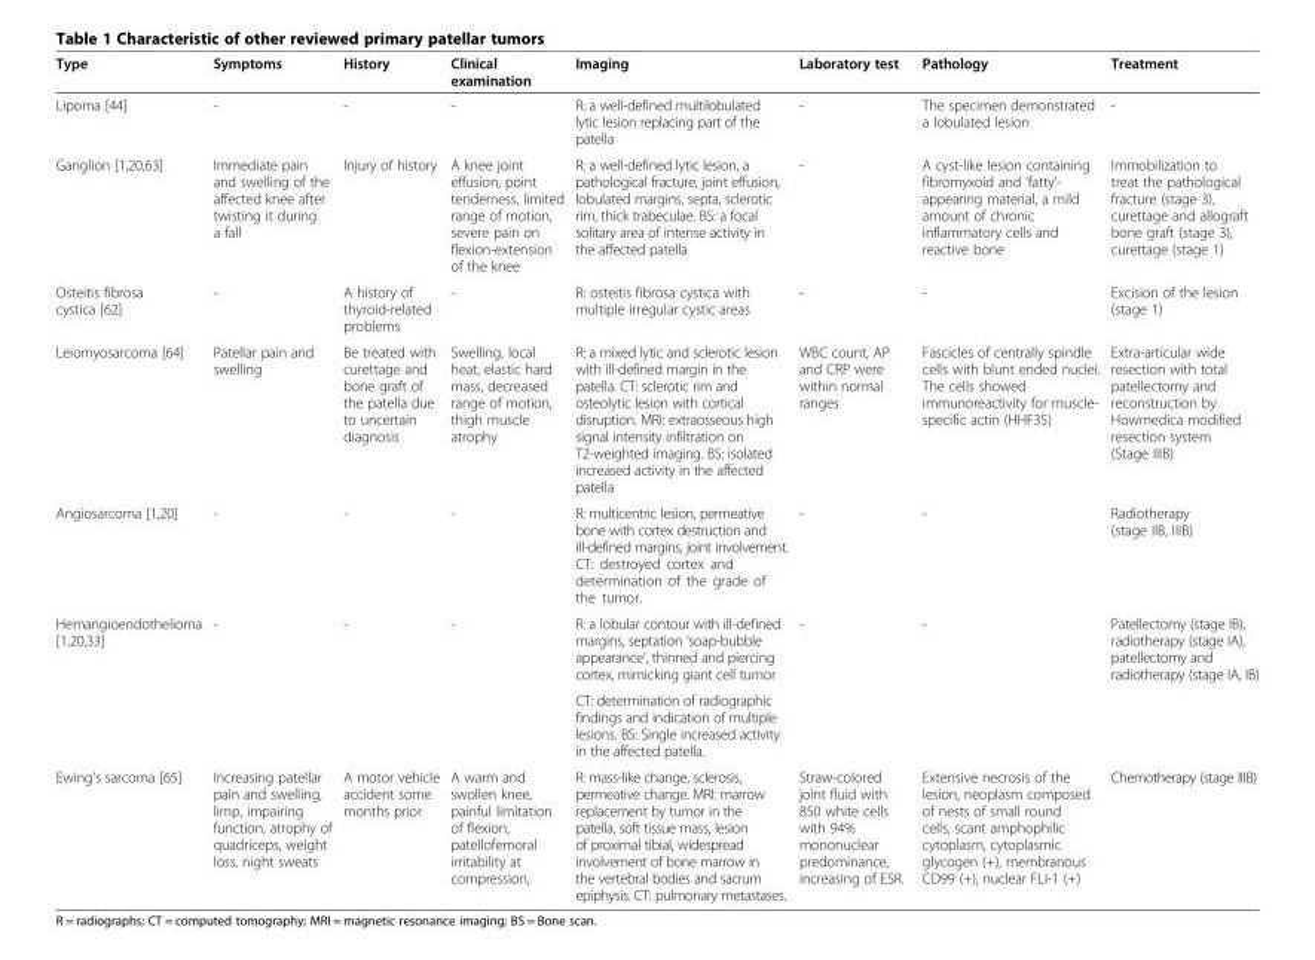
<table><thead><tr><td>Type</td><td>Symptoms</td><td>History</td><td>Clinical examination</td><td>Imaging</td><td>Laboratory test</td><td>Pathology</td><td>Treatment</td></tr></thead><tbody><tr><td>Lipoma [44]</td><td>-</td><td>-</td><td>-</td><td>R: a well-defined multilobulated lytic lesion replacing part of the patella</td><td>-</td><td>The specimen demonstrated a lobulated lesion</td><td>-</td></tr><tr><td>Ganglion [1,20,63]</td><td>Immediate pain and swelling of the affected knee after twisting it during a fall</td><td>Injury of history</td><td>A knee joint effusion, point tenderness, limited range of motion, severe pain on flexion-extension of the knee</td><td>R: a well-defined lytic lesion, a pathological fracture, joint effusion, lobulated margins, septa, sclerotic rim, thick trabeculae. BS: a focal solitary area of intense activity in the affected patella</td><td>-</td><td>A cyst-like lesion containing fibromyxoid and ‘fatty’- appearing material, a mild amount of chronic inflammatory cells and reactive bone</td><td>Immobilization to treat the pathological fracture (stage 3), curettage and allograft bone graft (stage 3), curettage (stage 1)</td></tr><tr><td>Osteitis fibrosa cystica [62]</td><td>-</td><td>A history of thyroid-related problems</td><td>-</td><td>R: osteitis fibrosa cystica with multiple irregular cystic areas</td><td>-</td><td>-</td><td>Excision of the lesion (stage 1)</td></tr><tr><td>Leiomyosarcoma [64]</td><td>Patellar pain and swelling</td><td>Be treated with curettage and bone graft of the patella due to uncertain diagnosis</td><td>Swelling, local heat, elastic hard mass, decreased range of motion, thigh muscle atrophy</td><td>R: a mixed lytic and sclerotic lesion with ill-defined margin in the patella. CT: sclerotic rim and osteolytic lesion with cortical disruption. MRI: extraosseous high signal intensity infiltration on T2-weighted imaging. BS: isolated increased activity in the affected patella</td><td>WBC count, AP and CRP were within normal ranges</td><td>Fascicles of centrally spindle cells with blunt ended nuclei. The cells showed immunoreactivity for muscle- specific actin (HHF35)</td><td>Extra-articular wide resection with total patellectomy and reconstruction by Howmedica modified resection system (Stage IIIB)</td></tr><tr><td>Angiosarcoma [1,20]</td><td>-</td><td>-</td><td>-</td><td>R: multicentric lesion, permeative bone with cortex destruction and ill-defined margins, joint involvement. CT: destroyed cortex and determination of the grade of the tumor.</td><td>-</td><td>-</td><td>Radiotherapy (stage IIB, IIIB)</td></tr><tr><td rowspan="2">Hemangioendothelioma [1,20,33]</td><td rowspan="2">-</td><td rowspan="2">-</td><td rowspan="2">-</td><td>R: a lobular contour with ill-defined margins, septation ‘soap-bubble appearance’, thinned and piercing cortex, mimicking giant cell tumor</td><td rowspan="2">-</td><td rowspan="2">-</td><td rowspan="2">Patellectomy (stage IB), radiotherapy (stage IA), patellectomy and radiotherapy (stage IA, IB)</td></tr><tr><td>CT: determination of radiographic findings and indication of multiple lesions. BS: Single increased activity in the affected patella.</td></tr><tr><td>Ewing’s sarcoma [65]</td><td>Increasing patellar pain and swelling, limp, impairing function, atrophy of quadriceps, weight loss, night sweats</td><td>A motor vehicle accident some months prior</td><td>A warm and swollen knee, painful limitation of flexion, patellofemoral irritability at compression,</td><td>R: mass-like change, sclerosis, permeative change. MRI: marrow replacement by tumor in the patella, soft tissue mass, lesion of proximal tibial, widespread involvement of bone marrow in the vertebral bodies and sacrum epiphysis. CT: pulmonary metastases.</td><td>Straw-colored joint fluid with 850 white cells with 94% mononuclear predominance, increasing of ESR.</td><td>Extensive necrosis of the lesion, neoplasm composed of nests of small round cells, scant amphophilic cytoplasm, cytoplasmic glycogen (+), membranous CD99 (+), nuclear FLI-1 (+)</td><td>Chemotherapy (stage IIIB)</td></tr></tbody></table>